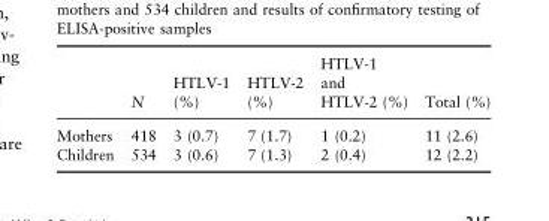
<table><thead><tr><td></td><td>N</td><td>HTLV-1 (%)</td><td>HTLV-2 (%)</td><td>HTLV-1 and HTLV-2 (%)</td><td>Total (%)</td></tr></thead><tbody><tr><td>Mothers</td><td>418</td><td>3 (0.7)</td><td>7 (1.7)</td><td>1 (0.2)</td><td>11 (2.6)</td></tr><tr><td>Children</td><td>534</td><td>3 (0.6)</td><td>7 (1.3)</td><td>2 (0.4)</td><td>12 (2.2)</td></tr></tbody></table>